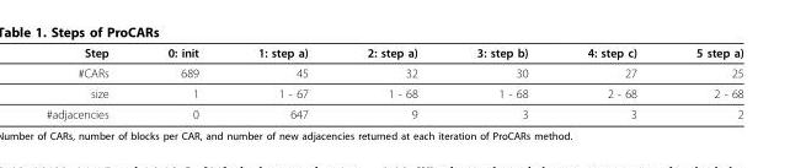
<table><thead><tr><td>Step</td><td>0: init</td><td>1: step a)</td><td>2: step a)</td><td>3: step b)</td><td>4: step c)</td><td>5 step a)</td></tr></thead><tbody><tr><td>#CARs</td><td>689</td><td>45</td><td>32</td><td>30</td><td>27</td><td>25</td></tr><tr><td>size</td><td>1</td><td>1 - 67</td><td>1 - 68</td><td>1 - 68</td><td>2 - 68</td><td>2 - 68</td></tr><tr><td>#adjacencies</td><td>0</td><td>647</td><td>9</td><td>3</td><td>3</td><td>2</td></tr></tbody></table>